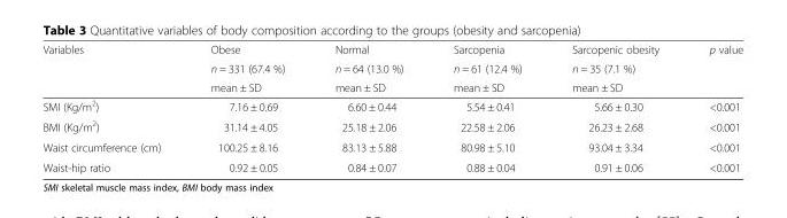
<table><thead><tr><td rowspan="3">Variables</td><td rowspan="3">Obese n = 331 (67.4 %) mean ± SD</td><td rowspan="3">Normal n = 64 (13.0 %) mean ± SD</td><td rowspan="3">Sarcopenia n = 61 (12.4 %) mean ± SD</td><td rowspan="3">Sarcopenic obesity n = 35 (7.1 %) mean ± SD</td><td rowspan="3">p value</td></tr><tr></tr><tr></tr></thead><tbody><tr><td>SMI (Kg/m<sup>2</sup>)</td><td>7.16 ± 0.69</td><td>6.60 ± 0.44</td><td>5.54 ± 0.41</td><td>5.66 ± 0.30</td><td>&lt;0.001</td></tr><tr><td>BMI (Kg/m<sup>2</sup>)</td><td>31.14 ± 4.05</td><td>25.18 ± 2.06</td><td>22.58 ± 2.06</td><td>26.23 ± 2.68</td><td>&lt;0.001</td></tr><tr><td>Waist circumference (cm)</td><td>100.25 ± 8.16</td><td>83.13 ± 5.88</td><td>80.98 ± 5.10</td><td>93.04 ± 3.34</td><td>&lt;0.001</td></tr><tr><td>Waist-hip ratio</td><td>0.92 ± 0.05</td><td>0.84 ± 0.07</td><td>0.88 ± 0.04</td><td>0.91 ± 0.06</td><td>&lt;0.001</td></tr></tbody></table>